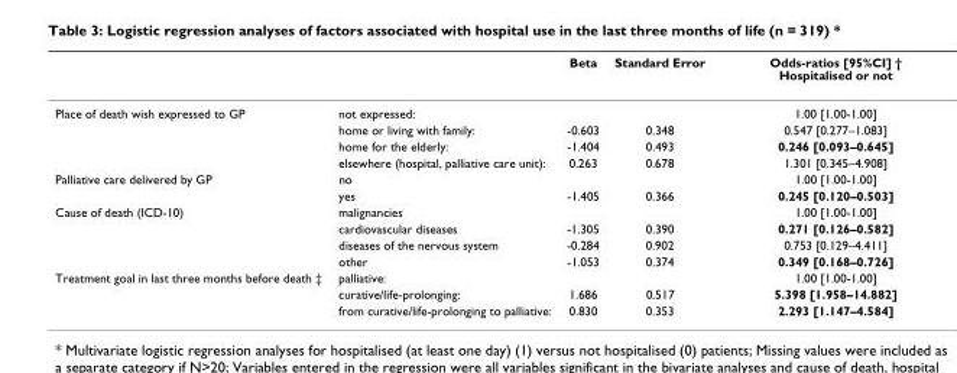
<table><thead><tr><td></td><td></td><td>Beta</td><td>Standard Error</td><td>Odds-ratios [95%CI] † Hospitalised or not</td></tr></thead><tbody><tr><td rowspan="4">Place of death wish expressed to GP</td><td>not expressed:</td><td></td><td></td><td>1.00 [1.00-1.00]</td></tr><tr><td>home or living with family:</td><td>-0.603</td><td>0.348</td><td>0.547 [0.277–1.083]</td></tr><tr><td>home for the elderly:</td><td>-1.404</td><td>0.493</td><td>0.246 [0.093–0.645]</td></tr><tr><td>elsewhere (hospital, palliative care unit):</td><td>0.263</td><td>0.678</td><td>1.301 [0.345–4.908]</td></tr><tr><td rowspan="2">Palliative care delivered by GP</td><td>no</td><td></td><td></td><td>1.00 [1.00-1.00]</td></tr><tr><td>yes</td><td>-1.405</td><td>0.366</td><td>0.245 [0.120–0.503]</td></tr><tr><td rowspan="4">Cause of death (ICD-10)</td><td>malignancies</td><td></td><td></td><td>1.00 [1.00-1.00]</td></tr><tr><td>cardiovascular diseases</td><td>-1.305</td><td>0.390</td><td>0.271 [0.126–0.582]</td></tr><tr><td>diseases of the nervous system</td><td>-0.284</td><td>0.902</td><td>0.753 [0.129–4.411]</td></tr><tr><td>other</td><td>-1.053</td><td>0.374</td><td>0.349 [0.168–0.726]</td></tr><tr><td rowspan="3">Treatment goal in last three months before death ‡</td><td>palliative:</td><td></td><td></td><td>1.00 [1.00-1.00]</td></tr><tr><td>curative/life-prolonging:</td><td>1.686</td><td>0.517</td><td>5.398 [1.958–14.882]</td></tr><tr><td>from curative/life-prolonging to palliative:</td><td>0.830</td><td>0.353</td><td>2.293 [1.147–4.584]</td></tr></tbody></table>